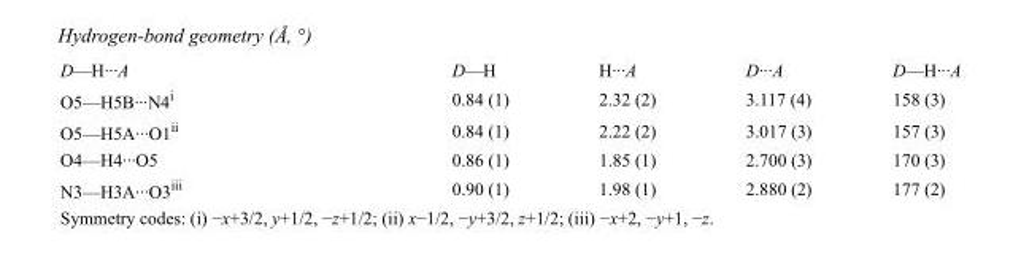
<table><tbody><tr><td>D—H···A</td><td>D—H</td><td>H···A</td><td>D···A</td><td>D—H···A</td></tr><tr><td>O5—H5B···N4<sup>i</sup></td><td>0.84 (1)</td><td>2.32 (2)</td><td>3.117 (4)</td><td>158 (3)</td></tr><tr><td>O5—H5A···O1<sup>ii</sup></td><td>0.84 (1)</td><td>2.22 (2)</td><td>3.017 (3)</td><td>157 (3)</td></tr><tr><td>O4—H4···O5</td><td>0.86 (1)</td><td>1.85 (1)</td><td>2.700 (3)</td><td>170 (3)</td></tr><tr><td>N3—H3A···O3<sup>iii</sup></td><td>0.90 (1)</td><td>1.98 (1)</td><td>2.880 (2)</td><td>177 (2)</td></tr></tbody></table>